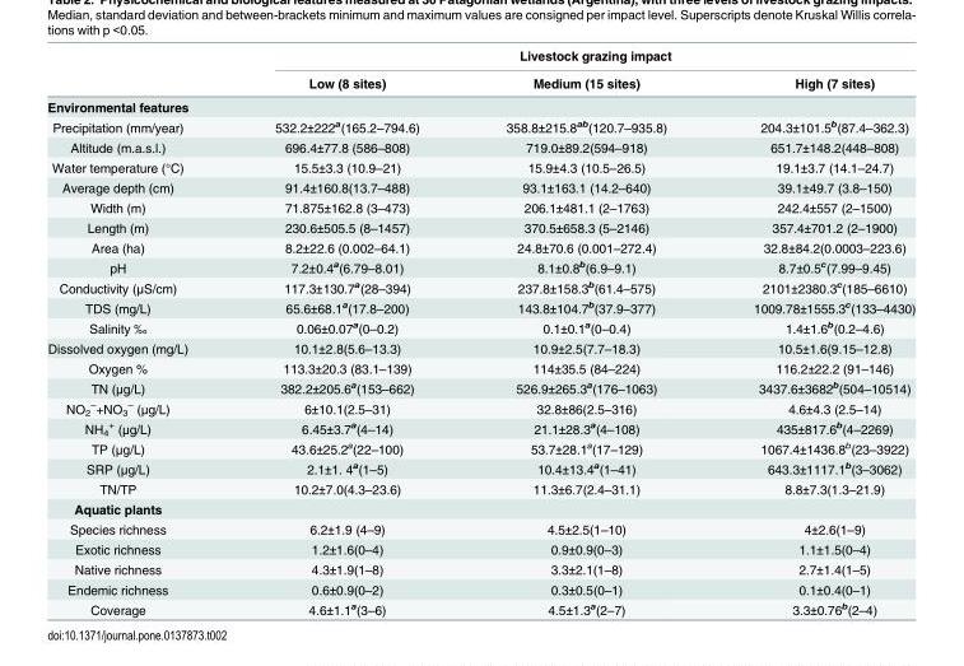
<table><thead><tr><td rowspan="2"></td><td colspan="3">Livestock grazing impact</td></tr><tr><td>Low (8 sites)</td><td>Medium (15 sites)</td><td>High (7 sites)</td></tr></thead><tbody><tr><td colspan="4">Environmental features</td></tr><tr><td>Precipitation (mm/year)</td><td>532.2±222<sup>a</sup>(165.2–794.6)</td><td>358.8±215.8<sup>ab</sup>(120.7–935.8)</td><td>204.3±101.5<sup>b</sup>(87.4–362.3)</td></tr><tr><td>Altitude (m.a.s.l.)</td><td>696.4±77.8 (586–808)</td><td>719.0±89.2(594–918)</td><td>651.7±148.2(448–808)</td></tr><tr><td>Water temperature (°C)</td><td>15.5±3.3 (10.9–21)</td><td>15.9±4.3 (10.5–26.5)</td><td>19.1±3.7 (14.1–24.7)</td></tr><tr><td>Average depth (cm)</td><td>91.4±160.8(13.7–488)</td><td>93.1±163.1 (14.2–640)</td><td>39.1±49.7 (3.8–150)</td></tr><tr><td>Width (m)</td><td>71.875±162.8 (3–473)</td><td>206.1±481.1 (2–1763)</td><td>242.4±557 (2–1500)</td></tr><tr><td>Length (m)</td><td>230.6±505.5 (8–1457)</td><td>370.5±658.3 (5–2146)</td><td>357.4±701.2 (2–1900)</td></tr><tr><td>Area (ha)</td><td>8.2±22.6 (0.002–64.1)</td><td>24.8±70.6 (0.001–272.4)</td><td>32.8±84.2(0.0003–223.6)</td></tr><tr><td>pH</td><td>7.2±0.4<sup>a</sup>(6.79–8.01)</td><td>8.1±0.8<sup>b</sup>(6.9–9.1)</td><td>8.7±0.5<sup>c</sup>(7.99–9.45)</td></tr><tr><td>Conductivity (μS/cm)</td><td>117.3±130.7<sup>a</sup>(28–394)</td><td>237.8±158.3<sup>b</sup>(61.4–575)</td><td>2101±2380.3<sup>c</sup>(185–6610)</td></tr><tr><td>TDS (mg/L)</td><td>65.6±68.1<sup>a</sup>(17.8–200)</td><td>143.8±104.7<sup>b</sup>(37.9–377)</td><td>1009.78±1555.3<sup>c</sup>(133–4430)</td></tr><tr><td>Salinity ‰</td><td>0.06±0.07<sup>a</sup>(0–0.2)</td><td>0.1±0.1<sup>a</sup>(0–0.4)</td><td>1.4±1.6<sup>b</sup>(0.2–4.6)</td></tr><tr><td>Dissolved oxygen (mg/L)</td><td>10.1±2.8(5.6–13.3)</td><td>10.9±2.5(7.7–18.3)</td><td>10.5±1.6(9.15–12.8)</td></tr><tr><td>Oxygen %</td><td>113.3±20.3 (83.1–139)</td><td>114±35.5 (84–224)</td><td>116.2±22.2 (91–146)</td></tr><tr><td>TN (μg/L)</td><td>382.2±205.6<sup>a</sup>(153–662)</td><td>526.9±265.3<sup>a</sup>(176–1063)</td><td>3437.6±3682<sup>b</sup>(504–10514)</td></tr><tr><td>NO<sub>2</sub> <sup>–</sup>+NO<sub>3</sub> <sup>–</sup> (μg/L)</td><td>6±10.1(2.5–31)</td><td>32.8±86(2.5–316)</td><td>4.6±4.3 (2.5–14)</td></tr><tr><td>NH<sub>4</sub> <sup>+</sup> (μg/L)</td><td>6.45±3.7<sup>a</sup>(4–14)</td><td>21.1±28.3<sup>a</sup>(4–108)</td><td>435±817.6<sup>b</sup>(4–2269)</td></tr><tr><td>TP (μg/L)</td><td>43.6±25.2<sup>a</sup>(22–100)</td><td>53.7±28.1<sup>a</sup>(17–129)</td><td>1067.4±1436.8<sup>b</sup>(23–3922)</td></tr><tr><td>SRP (μg/L)</td><td>2.1±1. 4<sup>a</sup>(1–5)</td><td>10.4±13.4<sup>a</sup>(1–41)</td><td>643.3±1117.1<sup>b</sup>(3–3062)</td></tr><tr><td>TN/TP</td><td>10.2±7.0(4.3–23.6)</td><td>11.3±6.7(2.4–31.1)</td><td>8.8±7.3(1.3–21.9)</td></tr><tr><td colspan="4">Aquatic plants</td></tr><tr><td>Species richness</td><td>6.2±1.9 (4–9)</td><td>4.5±2.5(1–10)</td><td>4±2.6(1–9)</td></tr><tr><td>Exotic richness</td><td>1.2±1.6(0–4)</td><td>0.9±0.9(0–3)</td><td>1.1±1.5(0–4)</td></tr><tr><td>Native richness</td><td>4.3±1.9(1–8)</td><td>3.3±2.1(1–8)</td><td>2.7±1.4(1–5)</td></tr><tr><td>Endemic richness</td><td>0.6±0.9(0–2)</td><td>0.3±0.5(0–1)</td><td>0.1±0.4(0–1)</td></tr><tr><td>Coverage</td><td>4.6±1.1<sup>a</sup>(3–6)</td><td>4.5±1.3<sup>a</sup>(2–7)</td><td>3.3±0.76<sup>b</sup>(2–4)</td></tr></tbody></table>